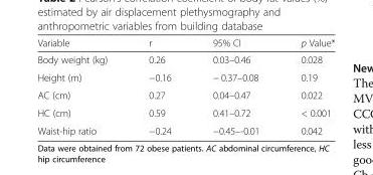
<table><thead><tr><td>Variable</td><td>r</td><td>95% CI</td><td>p Value*</td></tr></thead><tbody><tr><td>Body weight (kg)</td><td>0.26</td><td>0.03–0.46</td><td>0.028</td></tr><tr><td>Height (m)</td><td>−0.16</td><td>− 0.37–0.08</td><td>0.19</td></tr><tr><td>AC (cm)</td><td>0.27</td><td>0.04–0.47</td><td>0.022</td></tr><tr><td>HC (cm)</td><td>0.59</td><td>0.41–0.72</td><td>&lt; 0.001</td></tr><tr><td>Waist-hip ratio</td><td>−0.24</td><td>−0.45–-0.01</td><td>0.042</td></tr></tbody></table>